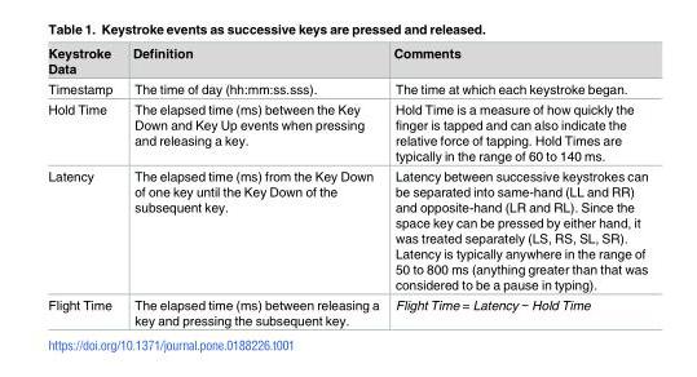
<table><thead><tr><td>Keystroke Data</td><td>Definition</td><td>Comments</td></tr></thead><tbody><tr><td>Timestamp</td><td>The time of day (hh:mm:ss.sss).</td><td>The time at which each keystroke began.</td></tr><tr><td>Hold Time</td><td>The elapsed time (ms) between the Key Down and Key Up events when pressing and releasing a key.</td><td>Hold Time is a measure of how quickly the finger is tapped and can also indicate the relative force of tapping. Hold Times are typically in the range of 60 to 140 ms.</td></tr><tr><td>Latency</td><td>The elapsed time (ms) from the Key Down of one key until the Key Down of the subsequent key.</td><td>Latency between successive keystrokes can be separated into same-hand (LL and RR) and opposite-hand (LR and RL). Since the space key can be pressed by either hand, it was treated separately (LS, RS, SL, SR). Latency is typically anywhere in the range of 50 to 800 ms (anything greater than that was considered to be a pause in typing).</td></tr><tr><td>Flight Time</td><td>The elapsed time (ms) between releasing a key and pressing the subsequent key.</td><td>Flight Time = Latency − Hold Time</td></tr></tbody></table>